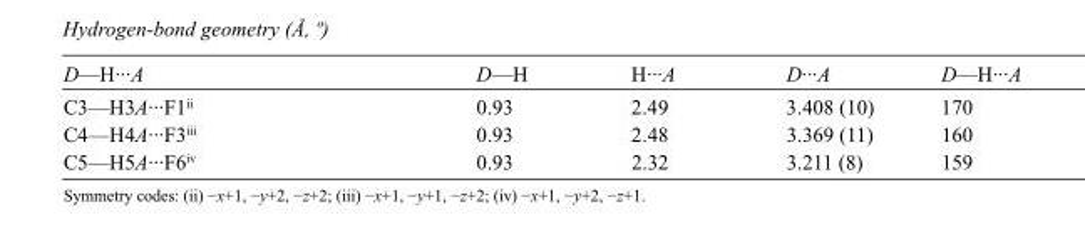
<table><tbody><tr><td>D—H···A</td><td>D—H</td><td>H···A</td><td>D···A</td><td>D—H···A</td></tr><tr><td>C3—H3A···F1<sup>ii</sup></td><td>0.93</td><td>2.49</td><td>3.408 (10)</td><td>170</td></tr><tr><td>C4—H4A···F3<sup>iii</sup></td><td>0.93</td><td>2.48</td><td>3.369 (11)</td><td>160</td></tr><tr><td>C5—H5A···F6<sup>iv</sup></td><td>0.93</td><td>2.32</td><td>3.211 (8)</td><td>159</td></tr></tbody></table>